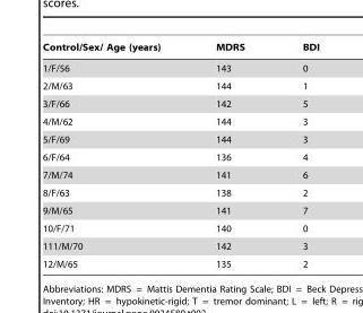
<table><thead><tr><td>Control/Sex/ Age (years)</td><td>MDRS</td><td>BDI</td></tr></thead><tbody><tr><td>1/F/56</td><td>143</td><td>0</td></tr><tr><td>2/M/63</td><td>144</td><td>1</td></tr><tr><td>3/F/66</td><td>142</td><td>5</td></tr><tr><td>4/M/62</td><td>144</td><td>3</td></tr><tr><td>5/F/69</td><td>144</td><td>3</td></tr><tr><td>6/F/64</td><td>136</td><td>4</td></tr><tr><td>7/M/74</td><td>141</td><td>6</td></tr><tr><td>8/F/63</td><td>138</td><td>2</td></tr><tr><td>9/M/65</td><td>141</td><td>7</td></tr><tr><td>10/F/71</td><td>140</td><td>0</td></tr><tr><td>111/M/70</td><td>142</td><td>3</td></tr><tr><td>12/M/65</td><td>135</td><td>2</td></tr></tbody></table>